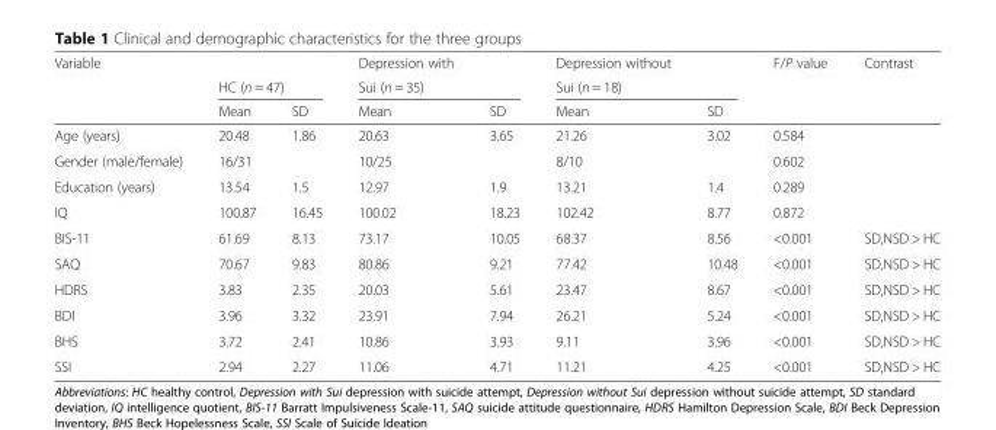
<table><thead><tr><td rowspan="3">Variable</td><td></td><td></td><td>Depression with</td><td></td><td>Depression without</td><td></td><td rowspan="3">F/P value</td><td rowspan="3">Contrast</td></tr><tr><td colspan="2">HC (n = 47)</td><td colspan="2">Sui (n = 35)</td><td colspan="2">Sui (n = 18)</td></tr><tr><td>Mean</td><td>SD</td><td>Mean</td><td>SD</td><td>Mean</td><td>SD</td></tr></thead><tbody><tr><td>Age (years)</td><td>20.48</td><td>1.86</td><td>20.63</td><td>3.65</td><td>21.26</td><td>3.02</td><td>0.584</td><td></td></tr><tr><td>Gender (male/female)</td><td>16/31</td><td></td><td>10/25</td><td></td><td>8/10</td><td></td><td>0.602</td><td></td></tr><tr><td>Education (years)</td><td>13.54</td><td>1.5</td><td>12.97</td><td>1.9</td><td>13.21</td><td>1.4</td><td>0.289</td><td></td></tr><tr><td>IQ</td><td>100.87</td><td>16.45</td><td>100.02</td><td>18.23</td><td>102.42</td><td>8.77</td><td>0.872</td><td></td></tr><tr><td>BIS-11</td><td>61.69</td><td>8.13</td><td>73.17</td><td>10.05</td><td>68.37</td><td>8.56</td><td>&lt;0.001</td><td>SD,NSD &gt; HC</td></tr><tr><td>SAQ</td><td>70.67</td><td>9.83</td><td>80.86</td><td>9.21</td><td>77.42</td><td>10.48</td><td>&lt;0.001</td><td>SD,NSD &gt; HC</td></tr><tr><td>HDRS</td><td>3.83</td><td>2.35</td><td>20.03</td><td>5.61</td><td>23.47</td><td>8.67</td><td>&lt;0.001</td><td>SD,NSD &gt; HC</td></tr><tr><td>BDI</td><td>3.96</td><td>3.32</td><td>23.91</td><td>7.94</td><td>26.21</td><td>5.24</td><td>&lt;0.001</td><td>SD,NSD &gt; HC</td></tr><tr><td>BHS</td><td>3.72</td><td>2.41</td><td>10.86</td><td>3.93</td><td>9.11</td><td>3.96</td><td>&lt;0.001</td><td>SD,NSD &gt; HC</td></tr><tr><td>SSI</td><td>2.94</td><td>2.27</td><td>11.06</td><td>4.71</td><td>11.21</td><td>4.25</td><td>&lt;0.001</td><td>SD,NSD &gt; HC</td></tr></tbody></table>